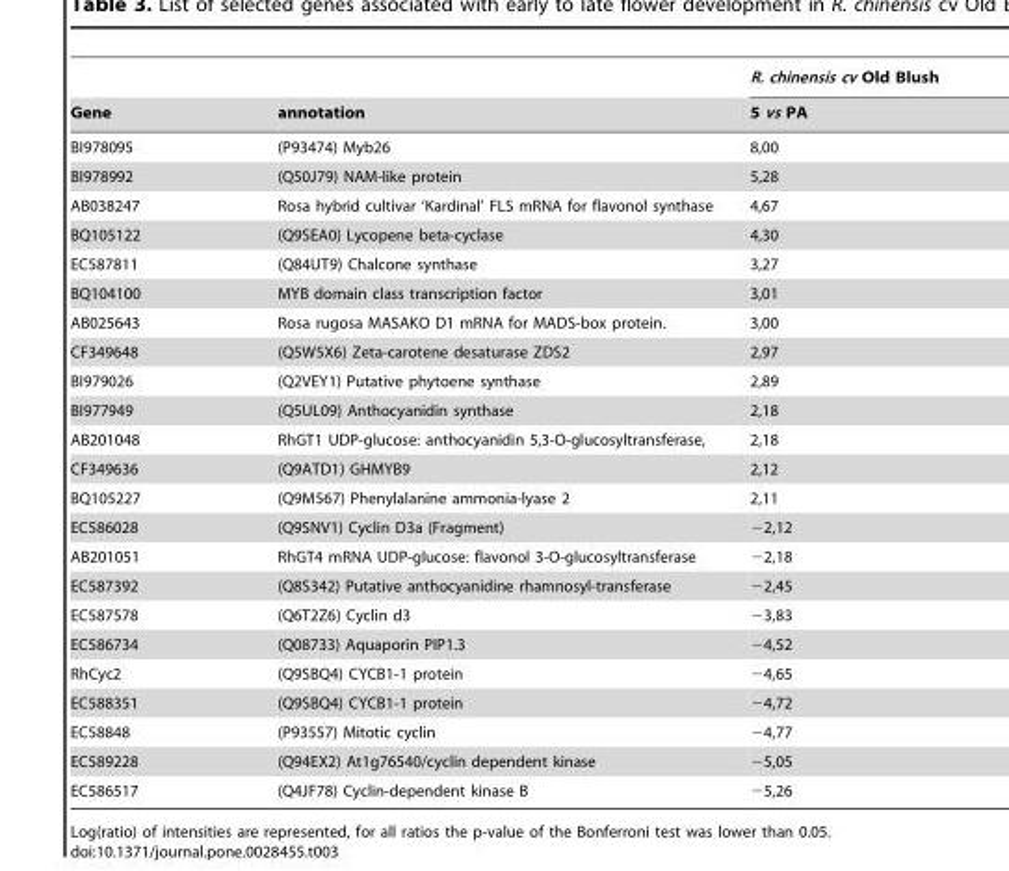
<table><thead><tr><td rowspan="2">Gene</td><td rowspan="2">annotation</td><td rowspan="2">R. chinensis cv Old Blush 5 vs PA</td></tr><tr></tr></thead><tbody><tr><td>BI978095</td><td>(P93474) Myb26</td><td>8,00</td></tr><tr><td>BI978992</td><td>(Q50J79) NAM-like protein</td><td>5,28</td></tr><tr><td>AB038247</td><td>Rosa hybrid cultivar ‘Kardinal’ FLS mRNA for flavonol synthase</td><td>4,67</td></tr><tr><td>BQ105122</td><td>(Q9SEA0) Lycopene beta-cyclase</td><td>4,30</td></tr><tr><td>EC587811</td><td>(Q84UT9) Chalcone synthase</td><td>3,27</td></tr><tr><td>BQ104100</td><td>MYB domain class transcription factor</td><td>3,01</td></tr><tr><td>AB025643</td><td>Rosa rugosa MASAKO D1 mRNA for MADS-box protein.</td><td>3,00</td></tr><tr><td>CF349648</td><td>(Q5W5X6) Zeta-carotene desaturase ZDS2</td><td>2,97</td></tr><tr><td>BI979026</td><td>(Q2VEY1) Putative phytoene synthase</td><td>2,89</td></tr><tr><td>BI977949</td><td>(Q5UL09) Anthocyanidin synthase</td><td>2,18</td></tr><tr><td>AB201048</td><td>RhGT1 UDP-glucose: anthocyanidin 5,3-O-glucosyltransferase,</td><td>2,18</td></tr><tr><td>CF349636</td><td>(Q9ATD1) GHMYB9</td><td>2,12</td></tr><tr><td>BQ105227</td><td>(Q9M567) Phenylalanine ammonia-lyase 2</td><td>2,11</td></tr><tr><td>EC586028</td><td>(Q9SNV1) Cyclin D3a (Fragment)</td><td>−2,12</td></tr><tr><td>AB201051</td><td>RhGT4 mRNA UDP-glucose: flavonol 3-O-glucosyltransferase</td><td>−2,18</td></tr><tr><td>EC587392</td><td>(Q8S342) Putative anthocyanidine rhamnosyl-transferase</td><td>−2,45</td></tr><tr><td>EC587578</td><td>(Q6T2Z6) Cyclin d3</td><td>−3,83</td></tr><tr><td>EC586734</td><td>(Q08733) Aquaporin PIP1.3</td><td>−4,52</td></tr><tr><td>RhCyc2</td><td>(Q9SBQ4) CYCB1-1 protein</td><td>−4,65</td></tr><tr><td>EC588351</td><td>(Q9SBQ4) CYCB1-1 protein</td><td>−4,72</td></tr><tr><td>EC58848</td><td>(P93557) Mitotic cyclin</td><td>−4,77</td></tr><tr><td>EC589228</td><td>(Q94EX2) At1g76540/cyclin dependent kinase</td><td>−5,05</td></tr><tr><td>EC586517</td><td>(Q4JF78) Cyclin-dependent kinase B</td><td>−5,26</td></tr></tbody></table>